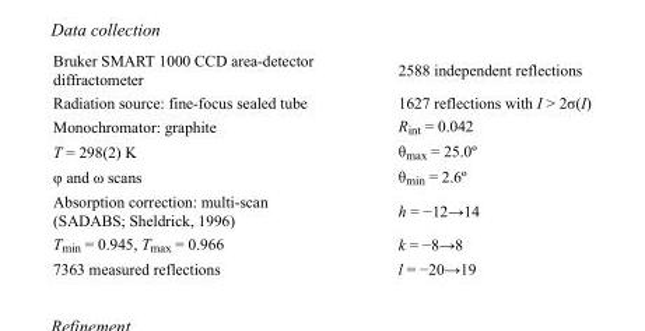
<table><tbody><tr><td>Bruker SMART 1000 CCD area-detector diffractometer</td><td>2588 independent reflections</td></tr><tr><td>Radiation source: fine-focus sealed tube</td><td>1627 reflections with I &gt; 2σ(I)</td></tr><tr><td>Monochromator: graphite</td><td>R<sub>int</sub> = 0.042</td></tr><tr><td>T = 298(2) K</td><td>θ<sub>max</sub> = 25.0º</td></tr><tr><td>φ and ω scans</td><td>θ<sub>min</sub> = 2.6º</td></tr><tr><td>Absorption correction: multi-scan (SADABS; Sheldrick, 1996)</td><td>h = −12→14</td></tr><tr><td>T<sub>min</sub> = 0.945, T<sub>max</sub> = 0.966</td><td>k = −8→8</td></tr><tr><td>7363 measured reflections</td><td>l = −20→19</td></tr></tbody></table>